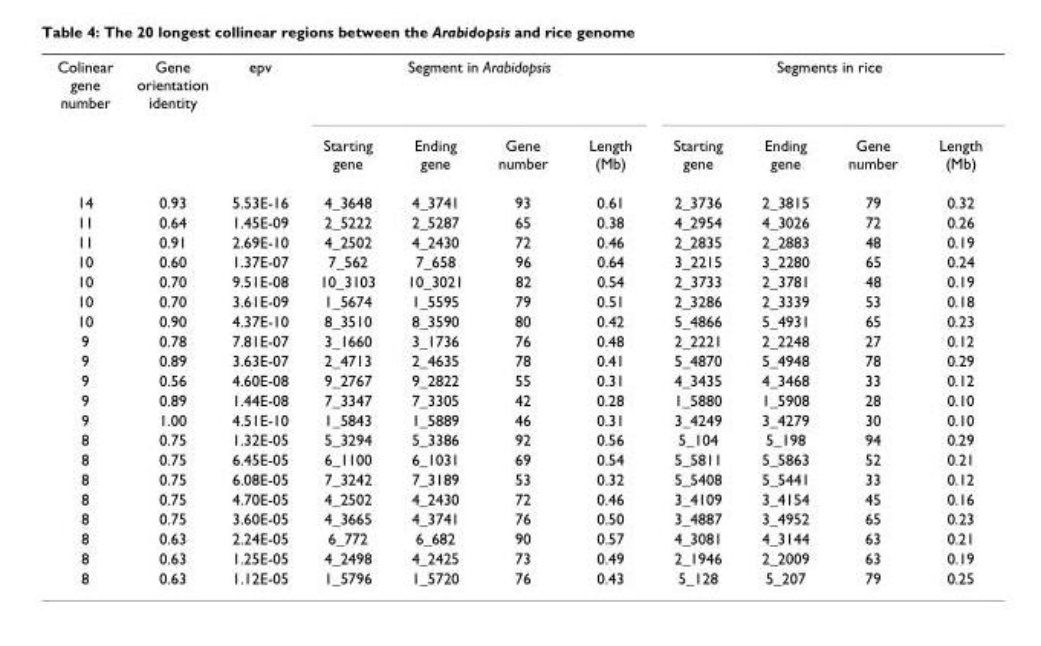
<table><tbody><tr><td rowspan="2">Colinear gene number</td><td>Gene orientation identity</td><td>epv</td><td colspan="4">Segment in Arabidopsis</td><td colspan="4">Segments in rice</td></tr><tr><td></td><td></td><td>Starting gene</td><td>Ending gene</td><td>Gene number</td><td>Length (Mb)</td><td>Starting gene</td><td>Ending gene</td><td>Gene number</td><td>Length (Mb)</td></tr><tr><td>14</td><td>0.93</td><td>5.53E-16</td><td>4_3648</td><td>4_3741</td><td>93</td><td>0.61</td><td>2_3736</td><td>2_3815</td><td>79</td><td>0.32</td></tr><tr><td>11</td><td>0.64</td><td>1.45E-09</td><td>2_5222</td><td>2_5287</td><td>65</td><td>0.38</td><td>4_2954</td><td>4_3026</td><td>72</td><td>0.26</td></tr><tr><td>11</td><td>0.91</td><td>2.69E-10</td><td>4_2502</td><td>4_2430</td><td>72</td><td>0.46</td><td>2_2835</td><td>2_2883</td><td>48</td><td>0.19</td></tr><tr><td>10</td><td>0.60</td><td>1.37E-07</td><td>7_562</td><td>7_658</td><td>96</td><td>0.64</td><td>3_2215</td><td>3_2280</td><td>65</td><td>0.24</td></tr><tr><td>10</td><td>0.70</td><td>9.51E-08</td><td>10_3103</td><td>10_3021</td><td>82</td><td>0.54</td><td>2_3733</td><td>2_3781</td><td>48</td><td>0.19</td></tr><tr><td>10</td><td>0.70</td><td>3.61E-09</td><td>1_5674</td><td>1_5595</td><td>79</td><td>0.51</td><td>2_3286</td><td>2_3339</td><td>53</td><td>0.18</td></tr><tr><td>10</td><td>0.90</td><td>4.37E-10</td><td>8_3510</td><td>8_3590</td><td>80</td><td>0.42</td><td>5_4866</td><td>5_4931</td><td>65</td><td>0.23</td></tr><tr><td>9</td><td>0.78</td><td>7.81E-07</td><td>3_1660</td><td>3_1736</td><td>76</td><td>0.48</td><td>2_2221</td><td>2_2248</td><td>27</td><td>0.12</td></tr><tr><td>9</td><td>0.89</td><td>3.63E-07</td><td>2_4713</td><td>2_4635</td><td>78</td><td>0.41</td><td>5_4870</td><td>5_4948</td><td>78</td><td>0.29</td></tr><tr><td>9</td><td>0.56</td><td>4.60E-08</td><td>9_2767</td><td>9_2822</td><td>55</td><td>0.31</td><td>4_3435</td><td>4_3468</td><td>33</td><td>0.12</td></tr><tr><td>9</td><td>0.89</td><td>1.44E-08</td><td>7_3347</td><td>7_3305</td><td>42</td><td>0.28</td><td>1_5880</td><td>1_5908</td><td>28</td><td>0.10</td></tr><tr><td>9</td><td>1.00</td><td>4.51E-10</td><td>1_5843</td><td>1_5889</td><td>46</td><td>0.31</td><td>3_4249</td><td>3_4279</td><td>30</td><td>0.10</td></tr><tr><td>8</td><td>0.75</td><td>1.32E-05</td><td>5_3294</td><td>5_3386</td><td>92</td><td>0.56</td><td>5_104</td><td>5_198</td><td>94</td><td>0.29</td></tr><tr><td>8</td><td>0.75</td><td>6.45E-05</td><td>6_1100</td><td>6_1031</td><td>69</td><td>0.54</td><td>5_5811</td><td>5_5863</td><td>52</td><td>0.21</td></tr><tr><td>8</td><td>0.75</td><td>6.08E-05</td><td>7_3242</td><td>7_3189</td><td>53</td><td>0.32</td><td>5_5408</td><td>5_5441</td><td>33</td><td>0.12</td></tr><tr><td>8</td><td>0.75</td><td>4.70E-05</td><td>4_2502</td><td>4_2430</td><td>72</td><td>0.46</td><td>3_4109</td><td>3_4154</td><td>45</td><td>0.16</td></tr><tr><td>8</td><td>0.75</td><td>3.60E-05</td><td>4_3665</td><td>4_3741</td><td>76</td><td>0.50</td><td>3_4887</td><td>3_4952</td><td>65</td><td>0.23</td></tr><tr><td>8</td><td>0.63</td><td>2.24E-05</td><td>6_772</td><td>6_682</td><td>90</td><td>0.57</td><td>4_3081</td><td>4_3144</td><td>63</td><td>0.21</td></tr><tr><td>8</td><td>0.63</td><td>1.25E-05</td><td>4_2498</td><td>4_2425</td><td>73</td><td>0.49</td><td>2_1946</td><td>2_2009</td><td>63</td><td>0.19</td></tr><tr><td>8</td><td>0.63</td><td>1.12E-05</td><td>1_5796</td><td>1_5720</td><td>76</td><td>0.43</td><td>5_128</td><td>5_207</td><td>79</td><td>0.25</td></tr></tbody></table>